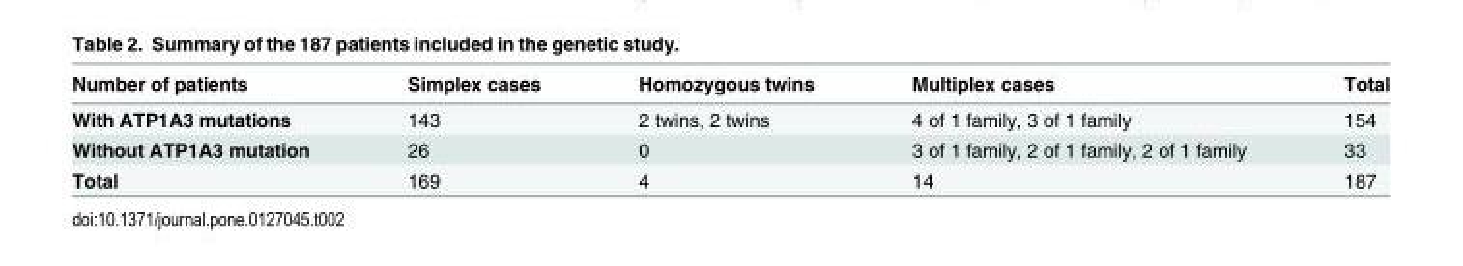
<table><thead><tr><td>Number of patients</td><td>Simplex cases</td><td>Homozygous twins</td><td>Multiplex cases</td><td>Total</td></tr></thead><tbody><tr><td>With ATP1A3 mutations</td><td>143</td><td>2 twins, 2 twins</td><td>4 of 1 family, 3 of 1 family</td><td>154</td></tr><tr><td>Without ATP1A3 mutation</td><td>26</td><td>0</td><td>3 of 1 family, 2 of 1 family, 2 of 1 family</td><td>33</td></tr><tr><td>Total</td><td>169</td><td>4</td><td>14</td><td>187</td></tr></tbody></table>